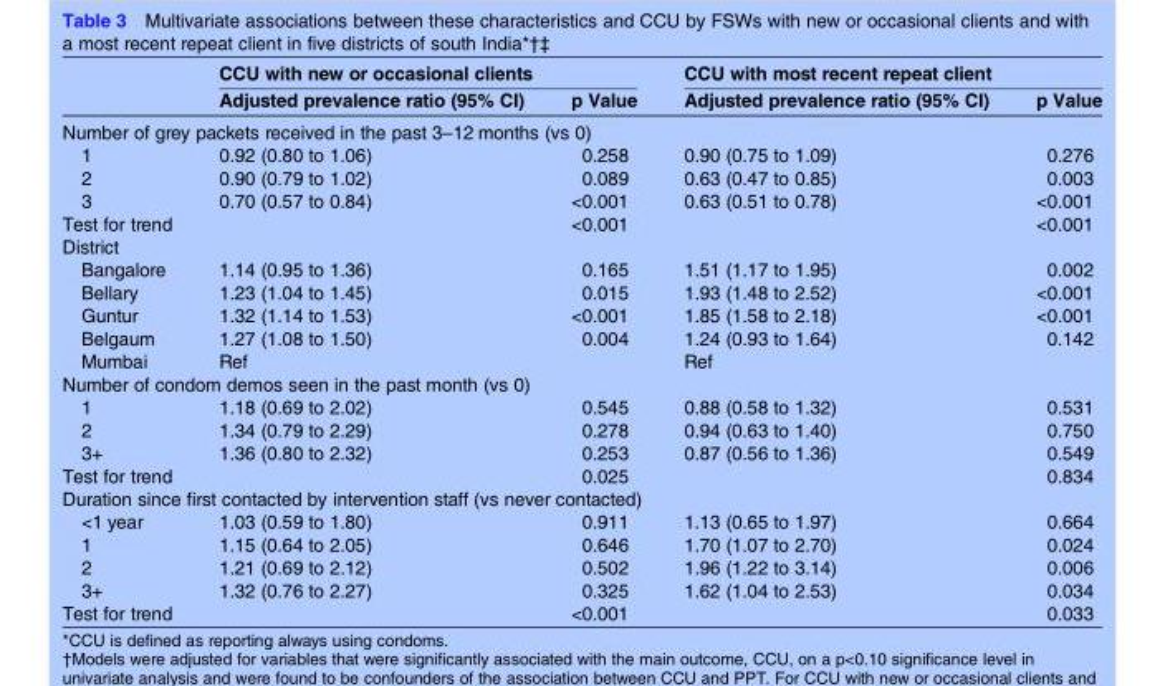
<table><thead><tr><td rowspan="2"></td><td colspan="2">CCU with new or occasional clients</td><td colspan="2">CCU with most recent repeat client</td></tr><tr><td>Adjusted prevalence ratio (95% CI)</td><td>p Value</td><td>Adjusted prevalence ratio (95% CI)</td><td>p Value</td></tr></thead><tbody><tr><td colspan="5">Number of grey packets received in the past 3–12 months (vs 0)</td></tr><tr><td>1</td><td>0.92 (0.80 to 1.06)</td><td>0.258</td><td>0.90 (0.75 to 1.09)</td><td>0.276</td></tr><tr><td>2</td><td>0.90 (0.79 to 1.02)</td><td>0.089</td><td>0.63 (0.47 to 0.85)</td><td>0.003</td></tr><tr><td>3</td><td>0.70 (0.57 to 0.84)</td><td>&lt;0.001</td><td>0.63 (0.51 to 0.78)</td><td>&lt;0.001</td></tr><tr><td>Test for trend</td><td></td><td>&lt;0.001</td><td></td><td>&lt;0.001</td></tr><tr><td colspan="5">District</td></tr><tr><td>Bangalore</td><td>1.14 (0.95 to 1.36)</td><td>0.165</td><td>1.51 (1.17 to 1.95)</td><td>0.002</td></tr><tr><td>Bellary</td><td>1.23 (1.04 to 1.45)</td><td>0.015</td><td>1.93 (1.48 to 2.52)</td><td>&lt;0.001</td></tr><tr><td>Guntur</td><td>1.32 (1.14 to 1.53)</td><td>&lt;0.001</td><td>1.85 (1.58 to 2.18)</td><td>&lt;0.001</td></tr><tr><td>Belgaum</td><td>1.27 (1.08 to 1.50)</td><td>0.004</td><td>1.24 (0.93 to 1.64)</td><td>0.142</td></tr><tr><td>Mumbai</td><td>Ref</td><td></td><td>Ref</td><td></td></tr><tr><td colspan="5">Number of condom demos seen in the past month (vs 0)</td></tr><tr><td>1</td><td>1.18 (0.69 to 2.02)</td><td>0.545</td><td>0.88 (0.58 to 1.32)</td><td>0.531</td></tr><tr><td>2</td><td>1.34 (0.79 to 2.29)</td><td>0.278</td><td>0.94 (0.63 to 1.40)</td><td>0.750</td></tr><tr><td>3+</td><td>1.36 (0.80 to 2.32)</td><td>0.253</td><td>0.87 (0.56 to 1.36)</td><td>0.549</td></tr><tr><td>Test for trend</td><td></td><td>0.025</td><td></td><td>0.834</td></tr><tr><td colspan="5">Duration since first contacted by intervention staff (vs never contacted)</td></tr><tr><td>&lt;1 year</td><td>1.03 (0.59 to 1.80)</td><td>0.911</td><td>1.13 (0.65 to 1.97)</td><td>0.664</td></tr><tr><td>1</td><td>1.15 (0.64 to 2.05)</td><td>0.646</td><td>1.70 (1.07 to 2.70)</td><td>0.024</td></tr><tr><td>2</td><td>1.21 (0.69 to 2.12)</td><td>0.502</td><td>1.96 (1.22 to 3.14)</td><td>0.006</td></tr><tr><td>3+</td><td>1.32 (0.76 to 2.27)</td><td>0.325</td><td>1.62 (1.04 to 2.53)</td><td>0.034</td></tr><tr><td>Test for trend</td><td></td><td>&lt;0.001</td><td></td><td>0.033</td></tr></tbody></table>